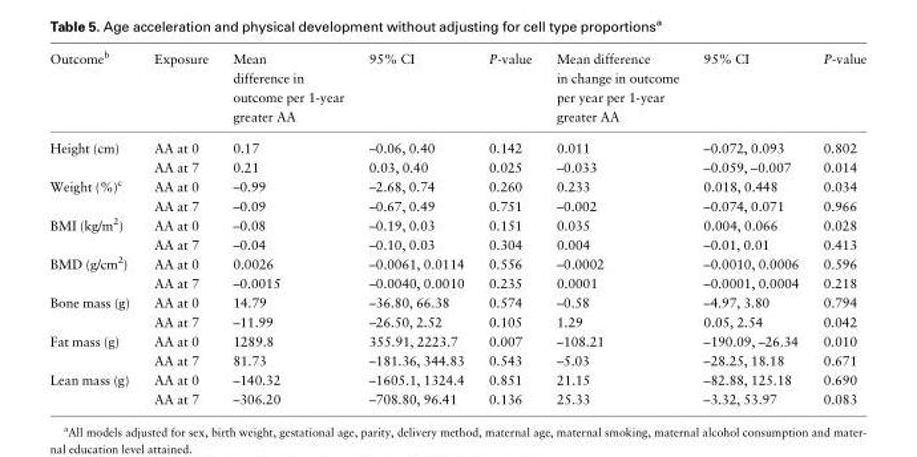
<table><thead><tr><td>Outcome<sup>b</sup></td><td>Exposure</td><td>Mean difference in outcome per 1-year greater AA</td><td>95% CI</td><td>P-value</td><td>Mean difference in change in outcome per year per 1-year greater AA</td><td>95% CI</td><td>P-value</td></tr></thead><tbody><tr><td rowspan="2">Height (cm)</td><td>AA at 0</td><td>0.17</td><td>–0.06, 0.40</td><td>0.142</td><td>0.011</td><td>–0.072, 0.093</td><td>0.802</td></tr><tr><td>AA at 7</td><td>0.21</td><td>0.03, 0.40</td><td>0.025</td><td>–0.033</td><td>–0.059, –0.007</td><td>0.014</td></tr><tr><td rowspan="2">Weight (%)<sup>c</sup></td><td>AA at 0</td><td>–0.99</td><td>–2.68, 0.74</td><td>0.260</td><td>0.233</td><td>0.018, 0.448</td><td>0.034</td></tr><tr><td>AA at 7</td><td>–0.09</td><td>–0.67, 0.49</td><td>0.751</td><td>–0.002</td><td>–0.074, 0.071</td><td>0.966</td></tr><tr><td rowspan="2">BMI (kg/m<sup>2</sup>)</td><td>AA at 0</td><td>–0.08</td><td>–0.19, 0.03</td><td>0.151</td><td>0.035</td><td>0.004, 0.066</td><td>0.028</td></tr><tr><td>AA at 7</td><td>–0.04</td><td>–0.10, 0.03</td><td>0.304</td><td>0.004</td><td>–0.01, 0.01</td><td>0.413</td></tr><tr><td rowspan="2">BMD (g/cm<sup>2</sup>)</td><td>AA at 0</td><td>0.0026</td><td>–0.0061, 0.0114</td><td>0.556</td><td>–0.0002</td><td>–0.0010, 0.0006</td><td>0.596</td></tr><tr><td>AA at 7</td><td>–0.0015</td><td>–0.0040, 0.0010</td><td>0.235</td><td>0.0001</td><td>–0.0001, 0.0004</td><td>0.218</td></tr><tr><td rowspan="2">Bone mass (g)</td><td>AA at 0</td><td>14.79</td><td>–36.80, 66.38</td><td>0.574</td><td>–0.58</td><td>–4.97, 3.80</td><td>0.794</td></tr><tr><td>AA at 7</td><td>–11.99</td><td>–26.50, 2.52</td><td>0.105</td><td>1.29</td><td>0.05, 2.54</td><td>0.042</td></tr><tr><td rowspan="2">Fat mass (g)</td><td>AA at 0</td><td>1289.8</td><td>355.91, 2223.7</td><td>0.007</td><td>–108.21</td><td>–190.09, –26.34</td><td>0.010</td></tr><tr><td>AA at 7</td><td>81.73</td><td>–181.36, 344.83</td><td>0.543</td><td>–5.03</td><td>–28.25, 18.18</td><td>0.671</td></tr><tr><td rowspan="2">Lean mass (g)</td><td>AA at 0</td><td>–140.32</td><td>–1605.1, 1324.4</td><td>0.851</td><td>21.15</td><td>–82.88, 125.18</td><td>0.690</td></tr><tr><td>AA at 7</td><td>–306.20</td><td>–708.80, 96.41</td><td>0.136</td><td>25.33</td><td>–3.32, 53.97</td><td>0.083</td></tr></tbody></table>